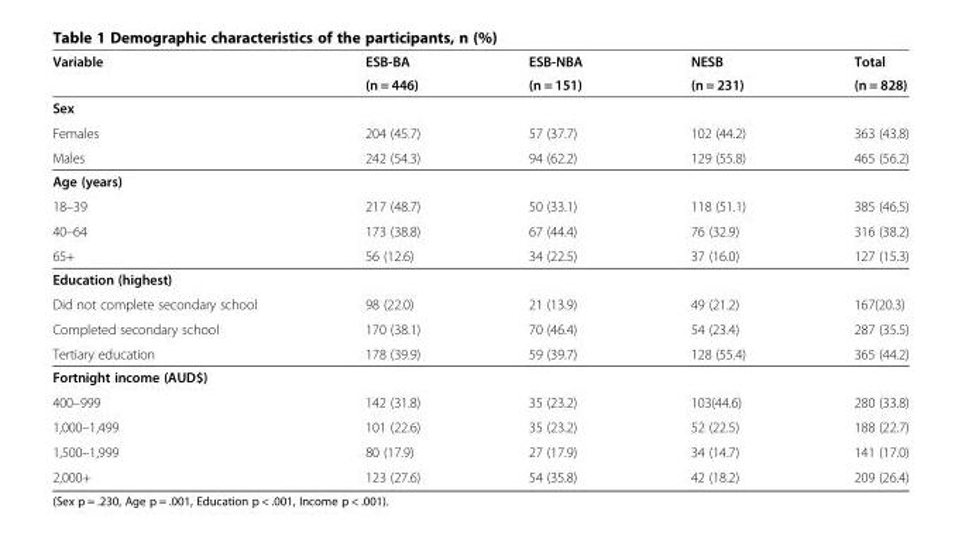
<table><thead><tr><td rowspan="2">Variable</td><td rowspan="2">ESB-BA (n = 446)</td><td rowspan="2">ESB-NBA (n = 151)</td><td rowspan="2">NESB (n = 231)</td><td rowspan="2">Total (n = 828)</td></tr><tr></tr></thead><tbody><tr><td colspan="5">Sex</td></tr><tr><td>Females</td><td>204 (45.7)</td><td>57 (37.7)</td><td>102 (44.2)</td><td>363 (43.8)</td></tr><tr><td>Males</td><td>242 (54.3)</td><td>94 (62.2)</td><td>129 (55.8)</td><td>465 (56.2)</td></tr><tr><td colspan="5">Age (years)</td></tr><tr><td>18–39</td><td>217 (48.7)</td><td>50 (33.1)</td><td>118 (51.1)</td><td>385 (46.5)</td></tr><tr><td>40–64</td><td>173 (38.8)</td><td>67 (44.4)</td><td>76 (32.9)</td><td>316 (38.2)</td></tr><tr><td>65+</td><td>56 (12.6)</td><td>34 (22.5)</td><td>37 (16.0)</td><td>127 (15.3)</td></tr><tr><td colspan="5">Education (highest)</td></tr><tr><td>Did not complete secondary school</td><td>98 (22.0)</td><td>21 (13.9)</td><td>49 (21.2)</td><td>167(20.3)</td></tr><tr><td>Completed secondary school</td><td>170 (38.1)</td><td>70 (46.4)</td><td>54 (23.4)</td><td>287 (35.5)</td></tr><tr><td>Tertiary education</td><td>178 (39.9)</td><td>59 (39.7)</td><td>128 (55.4)</td><td>365 (44.2)</td></tr><tr><td colspan="5">Fortnight income (AUD$)</td></tr><tr><td>400–999</td><td>142 (31.8)</td><td>35 (23.2)</td><td>103(44.6)</td><td>280 (33.8)</td></tr><tr><td>1,000–1,499</td><td>101 (22.6)</td><td>35 (23.2)</td><td>52 (22.5)</td><td>188 (22.7)</td></tr><tr><td>1,500–1,999</td><td>80 (17.9)</td><td>27 (17.9)</td><td>34 (14.7)</td><td>141 (17.0)</td></tr><tr><td>2,000+</td><td>123 (27.6)</td><td>54 (35.8)</td><td>42 (18.2)</td><td>209 (26.4)</td></tr></tbody></table>